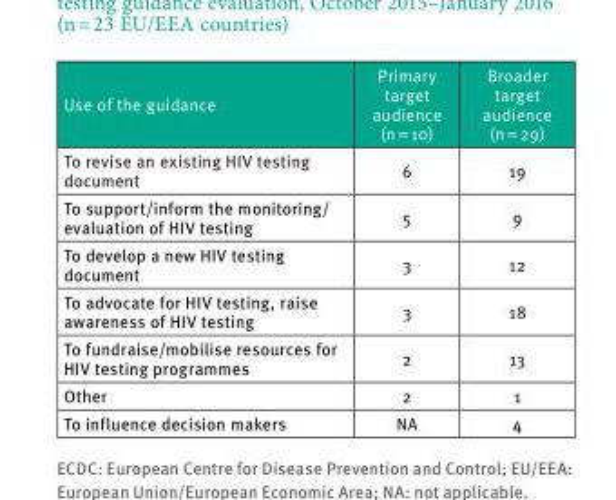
<table><thead><tr><td>Use of the guidance</td><td>Primary target audience (n = 10)</td><td>Broader target audience (n = 29)</td></tr></thead><tbody><tr><td>To revise an existing HIV testing document</td><td>6</td><td>19</td></tr><tr><td>To support/inform the monitoring/ evaluation of HIV testing</td><td>5</td><td>9</td></tr><tr><td>To develop a new HIV testing document</td><td>3</td><td>12</td></tr><tr><td>To advocate for HIV testing, raise awareness of HIV testing</td><td>3</td><td>18</td></tr><tr><td>To fundraise/mobilise resources for HIV testing programmes</td><td>2</td><td>13</td></tr><tr><td>Other</td><td>2</td><td>1</td></tr><tr><td>To influence decision makers</td><td>NA</td><td>4</td></tr></tbody></table>